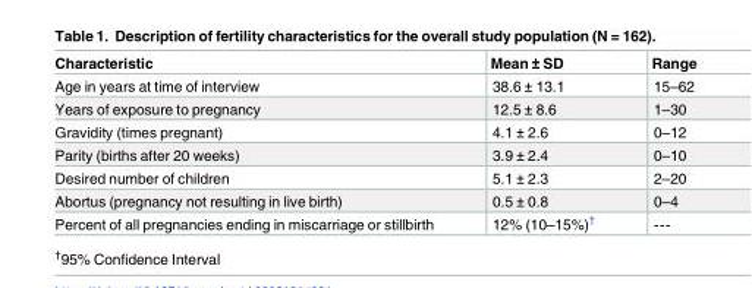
<table><thead><tr><td>Characteristic</td><td>Mean ± SD</td><td>Range</td></tr></thead><tbody><tr><td>Age in years at time of interview</td><td>38.6 ± 13.1</td><td>15–62</td></tr><tr><td>Years of exposure to pregnancy</td><td>12.5 ± 8.6</td><td>1–30</td></tr><tr><td>Gravidity (times pregnant)</td><td>4.1 ± 2.6</td><td>0–12</td></tr><tr><td>Parity (births after 20 weeks)</td><td>3.9 ± 2.4</td><td>0–10</td></tr><tr><td>Desired number of children</td><td>5.1 ± 2.3</td><td>2–20</td></tr><tr><td>Abortus (pregnancy not resulting in live birth)</td><td>0.5 ± 0.8</td><td>0–4</td></tr><tr><td>Percent of all pregnancies ending in miscarriage or stillbirth</td><td>12% (10–15%)<sup>†</sup></td><td>---</td></tr></tbody></table>